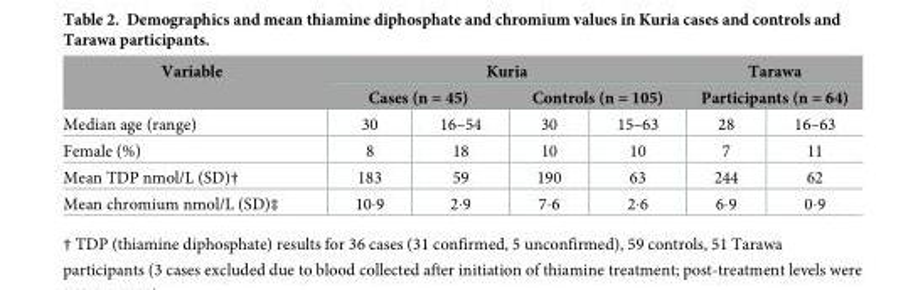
<table><thead><tr><td rowspan="3">Variable Median age (range)</td><td colspan="4">Kuria</td><td rowspan="2" colspan="2">Tarawa Participants (n = 64)</td></tr><tr><td colspan="2">Cases (n = 45)</td><td colspan="2">Controls (n = 105)</td></tr><tr><td>30</td><td>16–54</td><td>30</td><td>15–63</td><td>28</td><td>16–63</td></tr></thead><tbody><tr><td>Female (%)</td><td>8</td><td>18</td><td>10</td><td>10</td><td>7</td><td>11</td></tr><tr><td>Mean TDP nmol/L (SD)†</td><td>183</td><td>59</td><td>190</td><td>63</td><td>244</td><td>62</td></tr><tr><td>Mean chromium nmol/L (SD)‡</td><td>10·9</td><td>2·9</td><td>7·6</td><td>2·6</td><td>6·9</td><td>0·9</td></tr></tbody></table>